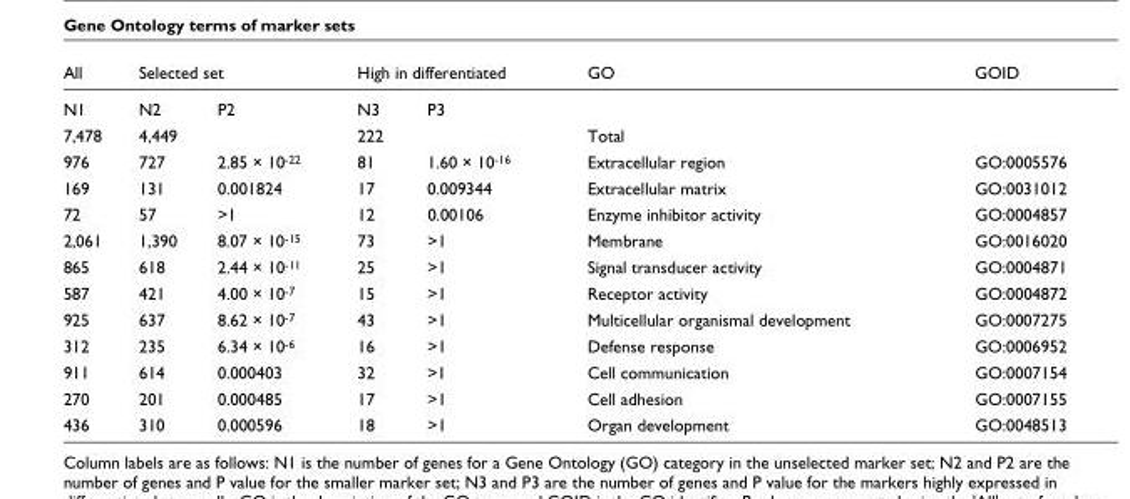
<table><thead><tr><td rowspan="2">All N1</td><td colspan="2">Selected set</td><td colspan="2">High in differentiated</td><td rowspan="2">GO</td><td rowspan="2">GOID</td></tr><tr><td>N2</td><td>P2</td><td>N3</td><td>P3</td></tr></thead><tbody><tr><td>7,478</td><td>4,449</td><td></td><td>222</td><td></td><td>Total</td><td></td></tr><tr><td>976</td><td>727</td><td>2.85 × 10<sup>-22</sup></td><td>81</td><td>1.60 × 10<sup>-16</sup></td><td>Extracellular region</td><td>GO:0005576</td></tr><tr><td>169</td><td>131</td><td>0.001824</td><td>17</td><td>0.009344</td><td>Extracellular matrix</td><td>GO:0031012</td></tr><tr><td>72</td><td>57</td><td>&gt;1</td><td>12</td><td>0.00106</td><td>Enzyme inhibitor activity</td><td>GO:0004857</td></tr><tr><td>2,061</td><td>1,390</td><td>8.07 × 10<sup>-15</sup></td><td>73</td><td>&gt;1</td><td>Membrane</td><td>GO:0016020</td></tr><tr><td>865</td><td>618</td><td>2.44 × 10<sup>-11</sup></td><td>25</td><td>&gt;1</td><td>Signal transducer activity</td><td>GO:0004871</td></tr><tr><td>587</td><td>421</td><td>4.00 × 10<sup>-7</sup></td><td>15</td><td>&gt;1</td><td>Receptor activity</td><td>GO:0004872</td></tr><tr><td>925</td><td>637</td><td>8.62 × 10<sup>-7</sup></td><td>43</td><td>&gt;1</td><td>Multicellular organismal development</td><td>GO:0007275</td></tr><tr><td>312</td><td>235</td><td>6.34 × 10<sup>-6</sup></td><td>16</td><td>&gt;1</td><td>Defense response</td><td>GO:0006952</td></tr><tr><td>911</td><td>614</td><td>0.000403</td><td>32</td><td>&gt;1</td><td>Cell communication</td><td>GO:0007154</td></tr><tr><td>270</td><td>201</td><td>0.000485</td><td>17</td><td>&gt;1</td><td>Cell adhesion</td><td>GO:0007155</td></tr><tr><td>436</td><td>310</td><td>0.000596</td><td>18</td><td>&gt;1</td><td>Organ development</td><td>GO:0048513</td></tr></tbody></table>